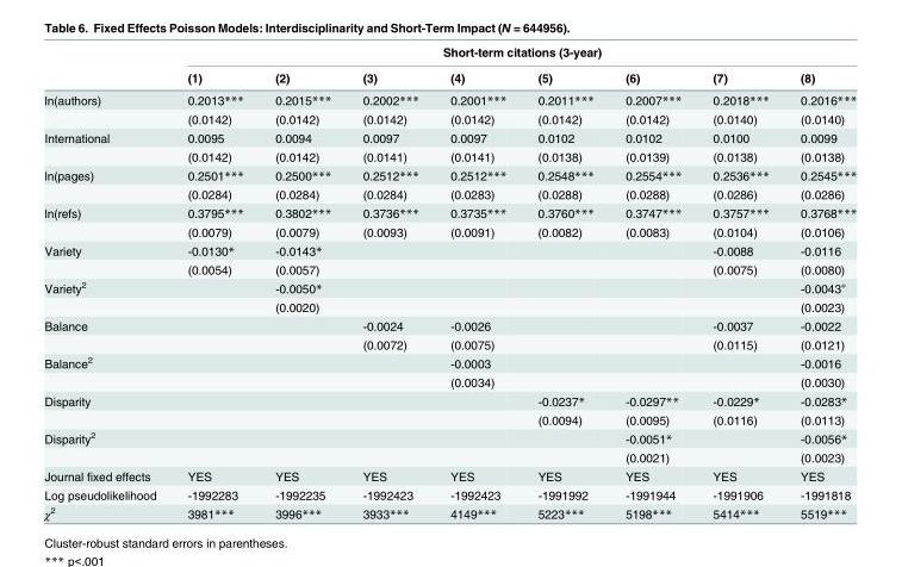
<table><thead><tr><td rowspan="2"></td><td colspan="8">Short-term citations (3-year)</td></tr><tr><td>(1)</td><td>(2)</td><td>(3)</td><td>(4)</td><td>(5)</td><td>(6)</td><td>(7)</td><td>(8)</td></tr></thead><tbody><tr><td rowspan="2">ln(authors)</td><td>0.2013***</td><td>0.2015***</td><td>0.2002***</td><td>0.2001***</td><td>0.2011***</td><td>0.2007***</td><td>0.2018***</td><td>0.2016***</td></tr><tr><td>(0.0142)</td><td>(0.0142)</td><td>(0.0142)</td><td>(0.0142)</td><td>(0.0142)</td><td>(0.0142)</td><td>(0.0140)</td><td>(0.0140)</td></tr><tr><td rowspan="2">International</td><td>0.0095</td><td>0.0094</td><td>0.0097</td><td>0.0097</td><td>0.0102</td><td>0.0102</td><td>0.0100</td><td>0.0099</td></tr><tr><td>(0.0142)</td><td>(0.0142)</td><td>(0.0141)</td><td>(0.0141)</td><td>(0.0138)</td><td>(0.0139)</td><td>(0.0138)</td><td>(0.0138)</td></tr><tr><td rowspan="2">ln(pages)</td><td>0.2501***</td><td>0.2500***</td><td>0.2512***</td><td>0.2512***</td><td>0.2548***</td><td>0.2554***</td><td>0.2536***</td><td>0.2545***</td></tr><tr><td>(0.0284)</td><td>(0.0284)</td><td>(0.0284)</td><td>(0.0283)</td><td>(0.0288)</td><td>(0.0288)</td><td>(0.0286)</td><td>(0.0286)</td></tr><tr><td rowspan="2">ln(refs)</td><td>0.3795***</td><td>0.3802***</td><td>0.3736***</td><td>0.3735***</td><td>0.3760***</td><td>0.3747***</td><td>0.3757***</td><td>0.3768***</td></tr><tr><td>(0.0079)</td><td>(0.0079)</td><td>(0.0093)</td><td>(0.0091)</td><td>(0.0082)</td><td>(0.0083)</td><td>(0.0104)</td><td>(0.0106)</td></tr><tr><td rowspan="2">Variety</td><td>-0.0130*</td><td>-0.0143*</td><td></td><td></td><td></td><td></td><td>-0.0088</td><td>-0.0116</td></tr><tr><td>(0.0054)</td><td>(0.0057)</td><td></td><td></td><td></td><td></td><td>(0.0075)</td><td>(0.0080)</td></tr><tr><td rowspan="2">Variety<sup>2</sup></td><td></td><td>-0.0050*</td><td></td><td></td><td></td><td></td><td></td><td>-0.0043<sup>+</sup></td></tr><tr><td></td><td>(0.0020)</td><td></td><td></td><td></td><td></td><td></td><td>(0.0023)</td></tr><tr><td rowspan="2">Balance</td><td></td><td></td><td>-0.0024</td><td>-0.0026</td><td></td><td></td><td>-0.0037</td><td>-0.0022</td></tr><tr><td></td><td></td><td>(0.0072)</td><td>(0.0075)</td><td></td><td></td><td>(0.0115)</td><td>(0.0121)</td></tr><tr><td rowspan="2">Balance<sup>2</sup></td><td></td><td></td><td></td><td>-0.0003</td><td></td><td></td><td></td><td>-0.0016</td></tr><tr><td></td><td></td><td></td><td>(0.0034)</td><td></td><td></td><td></td><td>(0.0030)</td></tr><tr><td rowspan="2">Disparity</td><td></td><td></td><td></td><td></td><td>-0.0237*</td><td>-0.0297**</td><td>-0.0229*</td><td>-0.0283*</td></tr><tr><td></td><td></td><td></td><td></td><td>(0.0094)</td><td>(0.0095)</td><td>(0.0116)</td><td>(0.0113)</td></tr><tr><td rowspan="2">Disparity<sup>2</sup></td><td></td><td></td><td></td><td></td><td></td><td>-0.0051*</td><td></td><td>-0.0056*</td></tr><tr><td></td><td></td><td></td><td></td><td></td><td>(0.0021)</td><td></td><td>(0.0023)</td></tr><tr><td>Journal fixed effects</td><td>YES</td><td>YES</td><td>YES</td><td>YES</td><td>YES</td><td>YES</td><td>YES</td><td>YES</td></tr><tr><td>Log pseudolikelihood</td><td>-1992283</td><td>-1992235</td><td>-1992423</td><td>-1992423</td><td>-1991992</td><td>-1991944</td><td>-1991906</td><td>-1991818</td></tr><tr><td>χ<sup>2</sup></td><td>3981***</td><td>3996***</td><td>3933***</td><td>4149***</td><td>5223***</td><td>5198***</td><td>5414***</td><td>5519***</td></tr></tbody></table>